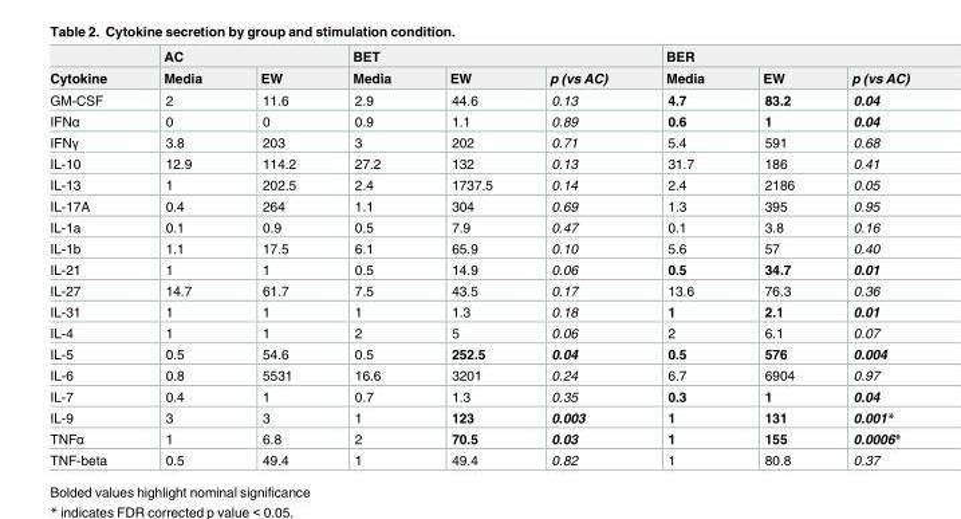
<table><thead><tr><td rowspan="2">Cytokine</td><td colspan="2">AC</td><td colspan="3">BET</td><td colspan="3">BER</td></tr><tr><td>Media</td><td>EW</td><td>Media</td><td>EW</td><td>p (vs AC)</td><td>Media</td><td>EW</td><td>p (vs AC)</td></tr></thead><tbody><tr><td>GM-CSF</td><td>2</td><td>11.6</td><td>2.9</td><td>44.6</td><td>0.13</td><td>4.7</td><td>83.2</td><td>0.04</td></tr><tr><td>IFNα</td><td>0</td><td>0</td><td>0.9</td><td>1.1</td><td>0.89</td><td>0.6</td><td>1</td><td>0.04</td></tr><tr><td>IFNγ</td><td>3.8</td><td>203</td><td>3</td><td>202</td><td>0.71</td><td>5.4</td><td>591</td><td>0.68</td></tr><tr><td>IL-10</td><td>12.9</td><td>114.2</td><td>27.2</td><td>132</td><td>0.13</td><td>31.7</td><td>186</td><td>0.41</td></tr><tr><td>IL-13</td><td>1</td><td>202.5</td><td>2.4</td><td>1737.5</td><td>0.14</td><td>2.4</td><td>2186</td><td>0.05</td></tr><tr><td>IL-17A</td><td>0.4</td><td>264</td><td>1.1</td><td>304</td><td>0.69</td><td>1.3</td><td>395</td><td>0.95</td></tr><tr><td>IL-1a</td><td>0.1</td><td>0.9</td><td>0.5</td><td>7.9</td><td>0.47</td><td>0.1</td><td>3.8</td><td>0.16</td></tr><tr><td>IL-1b</td><td>1.1</td><td>17.5</td><td>6.1</td><td>65.9</td><td>0.10</td><td>5.6</td><td>57</td><td>0.40</td></tr><tr><td>IL-21</td><td>1</td><td>1</td><td>0.5</td><td>14.9</td><td>0.06</td><td>0.5</td><td>34.7</td><td>0.01</td></tr><tr><td>IL-27</td><td>14.7</td><td>61.7</td><td>7.5</td><td>43.5</td><td>0.17</td><td>13.6</td><td>76.3</td><td>0.36</td></tr><tr><td>IL-31</td><td>1</td><td>1</td><td>1</td><td>1.3</td><td>0.18</td><td>1</td><td>2.1</td><td>0.01</td></tr><tr><td>IL-4</td><td>1</td><td>1</td><td>2</td><td>5</td><td>0.06</td><td>2</td><td>6.1</td><td>0.07</td></tr><tr><td>IL-5</td><td>0.5</td><td>54.6</td><td>0.5</td><td>252.5</td><td>0.04</td><td>0.5</td><td>576</td><td>0.004</td></tr><tr><td>IL-6</td><td>0.8</td><td>5531</td><td>16.6</td><td>3201</td><td>0.24</td><td>6.7</td><td>6904</td><td>0.97</td></tr><tr><td>IL-7</td><td>0.4</td><td>1</td><td>0.7</td><td>1.3</td><td>0.35</td><td>0.3</td><td>1</td><td>0.04</td></tr><tr><td>IL-9</td><td>3</td><td>3</td><td>1</td><td>123</td><td>0.003</td><td>1</td><td>131</td><td>0.001*</td></tr><tr><td>TNFα</td><td>1</td><td>6.8</td><td>2</td><td>70.5</td><td>0.03</td><td>1</td><td>155</td><td>0.0006*</td></tr><tr><td>TNF-beta</td><td>0.5</td><td>49.4</td><td>1</td><td>49.4</td><td>0.82</td><td>1</td><td>80.8</td><td>0.37</td></tr></tbody></table>